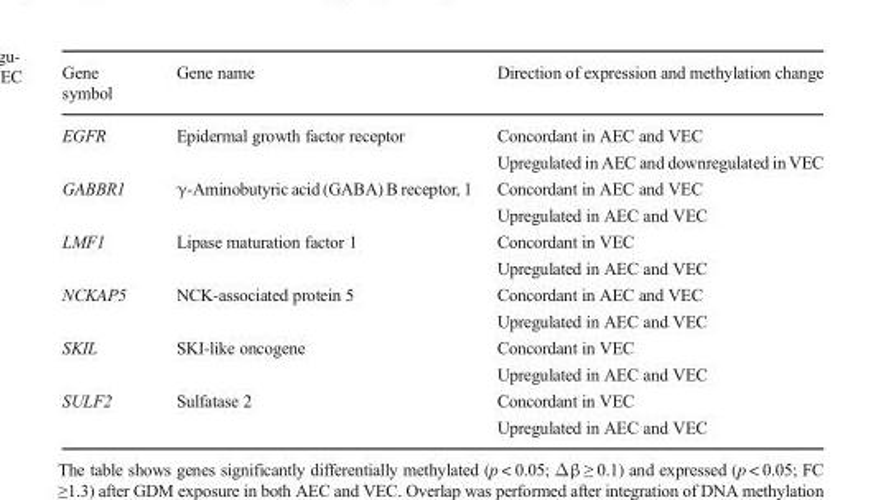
<table><thead><tr><td>Gene symbol</td><td>Gene name</td><td>Direction of expression and methylation change</td></tr></thead><tbody><tr><td>EGFR</td><td>Epidermal growth factor receptor</td><td>Concordant in AEC and VEC Upregulated in AEC and downregulated in VEC</td></tr><tr><td>GABBR1</td><td>γ-Aminobutyric acid (GABA) B receptor, 1</td><td>Concordant in AEC and VEC Upregulated in AEC and VEC</td></tr><tr><td>LMF1</td><td>Lipase maturation factor 1</td><td>Concordant in VEC Upregulated in AEC and VEC</td></tr><tr><td>NCKAP5</td><td>NCK-associated protein 5</td><td>Concordant in AEC and VEC Upregulated in AEC and VEC</td></tr><tr><td>SKIL</td><td>SKI-like oncogene</td><td>Concordant in VEC Upregulated in AEC and VEC</td></tr><tr><td>SULF2</td><td>Sulfatase 2</td><td>Concordant in VEC Upregulated in AEC and VEC</td></tr></tbody></table>